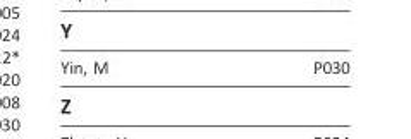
<table><tbody><tr><td>Yin, M</td><td>P030</td></tr></tbody></table>